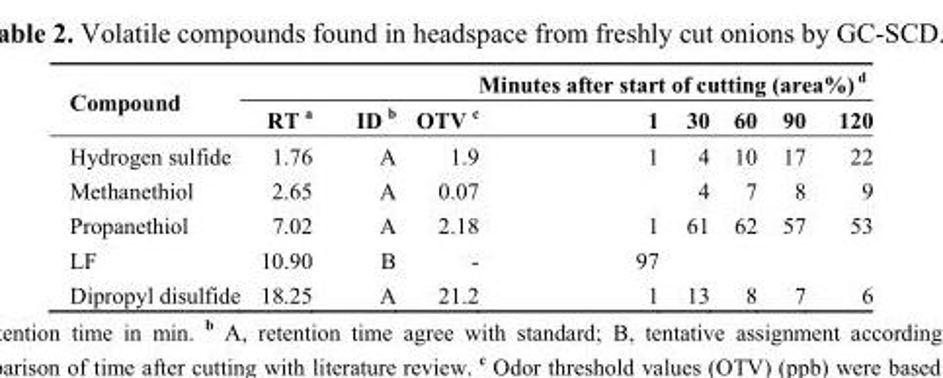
<table><thead><tr><td rowspan="2">Compound</td><td colspan="8">Minutes after start of cutting (area%) <sup>d</sup></td></tr><tr><td>RT <sup>a</sup></td><td>ID <sup>b</sup></td><td>OTV <sup>c</sup></td><td>1</td><td>30</td><td>60</td><td>90</td><td>120</td></tr></thead><tbody><tr><td>Hydrogen sulfide</td><td>1.76</td><td>A</td><td>1.9</td><td>1</td><td>4</td><td>10</td><td>17</td><td>22</td></tr><tr><td>Methanethiol</td><td>2.65</td><td>A</td><td>0.07</td><td></td><td>4</td><td>7</td><td>8</td><td>9</td></tr><tr><td>Propanethiol</td><td>7.02</td><td>A</td><td>2.18</td><td>1</td><td>61</td><td>62</td><td>57</td><td>53</td></tr><tr><td>LF</td><td>10.90</td><td>B</td><td>-</td><td>97</td><td></td><td></td><td></td><td></td></tr><tr><td>Dipropyl disulfide</td><td>18.25</td><td>A</td><td>21.2</td><td>1</td><td>13</td><td>8</td><td>7</td><td>6</td></tr></tbody></table>